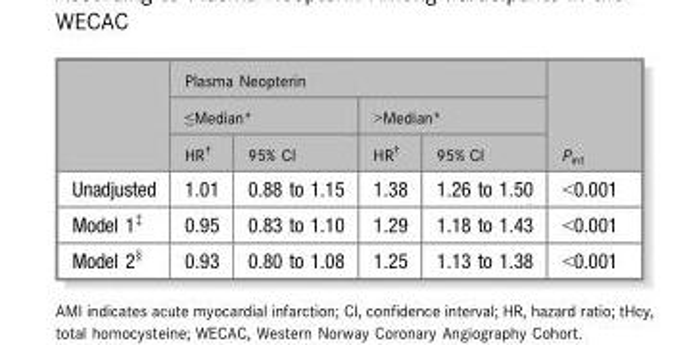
<table><thead><tr><td rowspan="3"></td><td colspan="4">Plasma Neopterin</td><td rowspan="3">P<sub>int</sub></td></tr><tr><td colspan="2">≤Median*</td><td colspan="2">&gt;Median*</td></tr><tr><td>HR†</td><td>95% CI</td><td>HR†</td><td>95% CI</td></tr></thead><tbody><tr><td>Unadjusted</td><td>1.01</td><td>0.88 to 1.15</td><td>1.38</td><td>1.26 to 1.50</td><td>&lt;0.001</td></tr><tr><td>Model 1‡</td><td>0.95</td><td>0.83 to 1.10</td><td>1.29</td><td>1.18 to 1.43</td><td>&lt;0.001</td></tr><tr><td>Model 2§</td><td>0.93</td><td>0.80 to 1.08</td><td>1.25</td><td>1.13 to 1.38</td><td>&lt;0.001</td></tr></tbody></table>